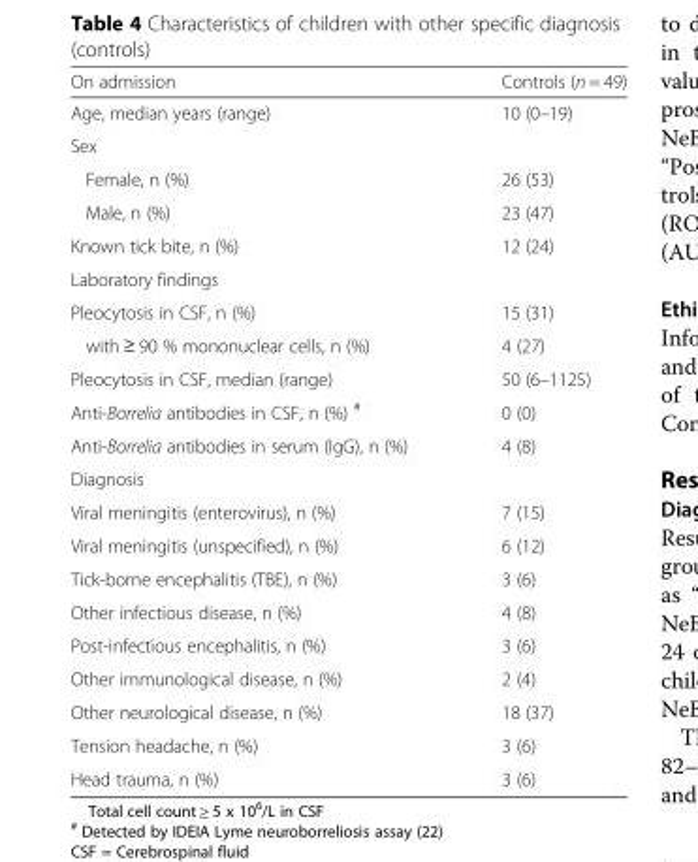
<table><thead><tr><td>On admission</td><td>Controls (n = 49)</td></tr></thead><tbody><tr><td>Age, median years (range)</td><td>10 (0–19)</td></tr><tr><td colspan="2">Sex</td></tr><tr><td>Female, n (%)</td><td>26 (53)</td></tr><tr><td>Male, n (%)</td><td>23 (47)</td></tr><tr><td>Known tick bite, n (%)</td><td>12 (24)</td></tr><tr><td colspan="2">Laboratory findings</td></tr><tr><td>Pleocytosis in CSF, n (%)</td><td>15 (31)</td></tr><tr><td>with ≥ 90 % mononuclear cells, n (%)</td><td>4 (27)</td></tr><tr><td>Pleocytosis in CSF, median (range)</td><td>50 (6–1125)</td></tr><tr><td>Anti-Borrelia antibodies in CSF, n (%) <sup>#</sup></td><td>0 (0)</td></tr><tr><td>Anti-Borrelia antibodies in serum (IgG), n (%)</td><td>4 (8)</td></tr><tr><td colspan="2">Diagnosis</td></tr><tr><td>Viral meningitis (enterovirus), n (%)</td><td>7 (15)</td></tr><tr><td>Viral meningitis (unspecified), n (%)</td><td>6 (12)</td></tr><tr><td>Tick-borne encephalitis (TBE), n (%)</td><td>3 (6)</td></tr><tr><td>Other infectious disease, n (%)</td><td>4 (8)</td></tr><tr><td>Post-infectious encephalitis, n (%)</td><td>3 (6)</td></tr><tr><td>Other immunological disease, n (%)</td><td>2 (4)</td></tr><tr><td>Other neurological disease, n (%)</td><td>18 (37)</td></tr><tr><td>Tension headache, n (%)</td><td>3 (6)</td></tr><tr><td>Head trauma, n (%)</td><td>3 (6)</td></tr></tbody></table>